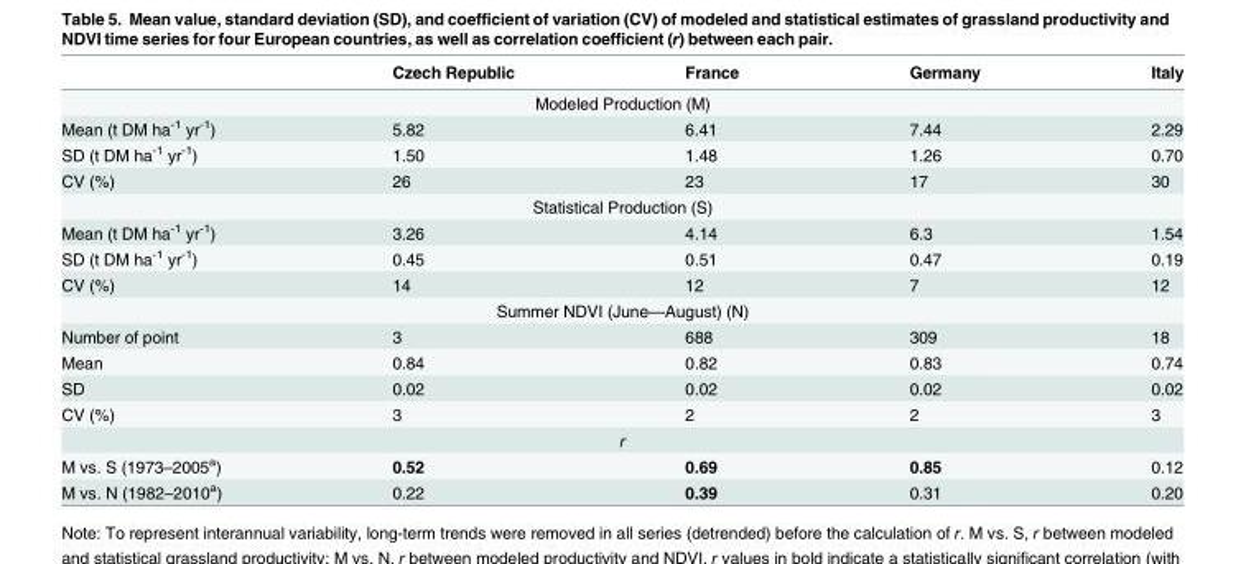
<table><thead><tr><td></td><td>Czech Republic</td><td>France</td><td>Germany</td><td>Italy</td></tr></thead><tbody><tr><td colspan="5">Modeled Production (M)</td></tr><tr><td>Mean (t DM ha<sup>-1</sup> yr<sup>-1</sup>)</td><td>5.82</td><td>6.41</td><td>7.44</td><td>2.29</td></tr><tr><td>SD (t DM ha<sup>-1</sup> yr<sup>-1</sup>)</td><td>1.50</td><td>1.48</td><td>1.26</td><td>0.70</td></tr><tr><td>CV (%)</td><td>26</td><td>23</td><td>17</td><td>30</td></tr><tr><td colspan="5">Statistical Production (S)</td></tr><tr><td>Mean (t DM ha<sup>-1</sup> yr<sup>-1</sup>)</td><td>3.26</td><td>4.14</td><td>6.3</td><td>1.54</td></tr><tr><td>SD (t DM ha<sup>-1</sup> yr<sup>-1</sup>)</td><td>0.45</td><td>0.51</td><td>0.47</td><td>0.19</td></tr><tr><td>CV (%)</td><td>14</td><td>12</td><td>7</td><td>12</td></tr><tr><td colspan="5">Summer NDVI (June—August) (N)</td></tr><tr><td>Number of point</td><td>3</td><td>688</td><td>309</td><td>18</td></tr><tr><td>Mean</td><td>0.84</td><td>0.82</td><td>0.83</td><td>0.74</td></tr><tr><td>SD</td><td>0.02</td><td>0.02</td><td>0.02</td><td>0.02</td></tr><tr><td>CV (%)</td><td>3</td><td>2</td><td>2</td><td>3</td></tr><tr><td colspan="5">r</td></tr><tr><td>M vs. S (1973–2005<sup>a</sup>)</td><td>0.52</td><td>0.69</td><td>0.85</td><td>0.12</td></tr><tr><td>M vs. N (1982–2010<sup>a</sup>)</td><td>0.22</td><td>0.39</td><td>0.31</td><td>0.20</td></tr></tbody></table>